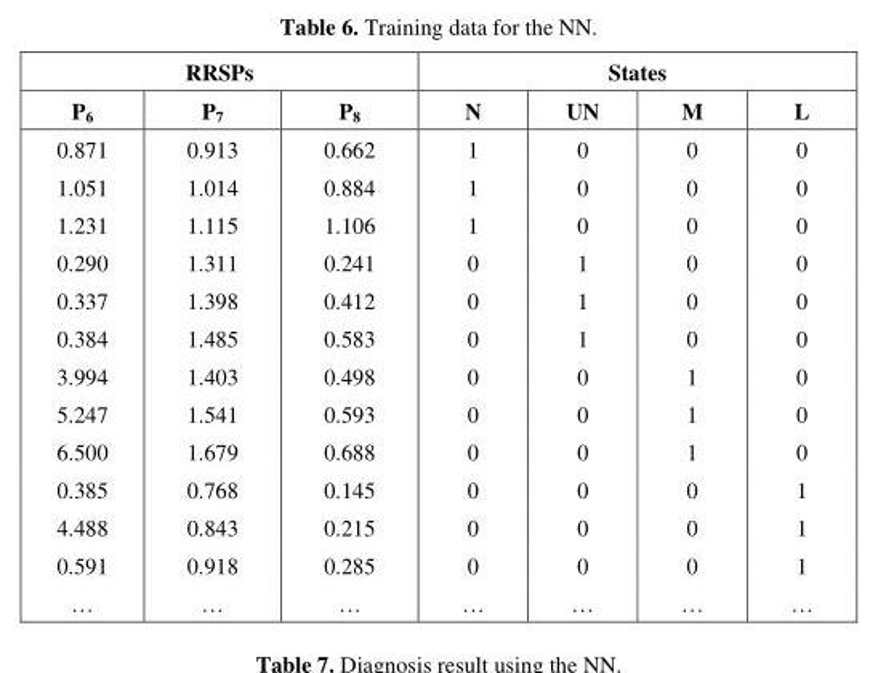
<table><thead><tr><td colspan="3">RRSPs</td><td colspan="4">States</td></tr><tr><td>P<sub>6</sub></td><td>P<sub>7</sub></td><td>P<sub>8</sub></td><td>N</td><td>UN</td><td>M</td><td>L</td></tr></thead><tbody><tr><td>0.871</td><td>0.913</td><td>0.662</td><td>1</td><td>0</td><td>0</td><td>0</td></tr><tr><td>1.051</td><td>1.014</td><td>0.884</td><td>1</td><td>0</td><td>0</td><td>0</td></tr><tr><td>1.231</td><td>1.115</td><td>1.106</td><td>1</td><td>0</td><td>0</td><td>0</td></tr><tr><td>0.290</td><td>1.311</td><td>0.241</td><td>0</td><td>1</td><td>0</td><td>0</td></tr><tr><td>0.337</td><td>1.398</td><td>0.412</td><td>0</td><td>1</td><td>0</td><td>0</td></tr><tr><td>0.384</td><td>1.485</td><td>0.583</td><td>0</td><td>1</td><td>0</td><td>0</td></tr><tr><td>3.994</td><td>1.403</td><td>0.498</td><td>0</td><td>0</td><td>1</td><td>0</td></tr><tr><td>5.247</td><td>1.541</td><td>0.593</td><td>0</td><td>0</td><td>1</td><td>0</td></tr><tr><td>6.500</td><td>1.679</td><td>0.688</td><td>0</td><td>0</td><td>1</td><td>0</td></tr><tr><td>0.385</td><td>0.768</td><td>0.145</td><td>0</td><td>0</td><td>0</td><td>1</td></tr><tr><td>4.488</td><td>0.843</td><td>0.215</td><td>0</td><td>0</td><td>0</td><td>1</td></tr><tr><td>0.591</td><td>0.918</td><td>0.285</td><td>0</td><td>0</td><td>0</td><td>1</td></tr><tr><td>…</td><td>…</td><td>…</td><td>…</td><td>…</td><td>…</td><td>…</td></tr></tbody></table>